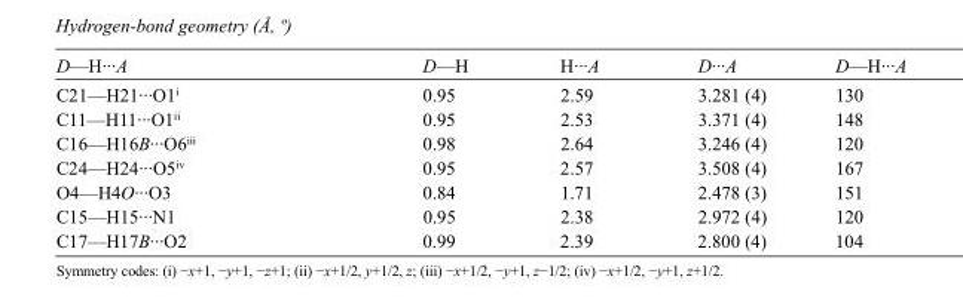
<table><tbody><tr><td>D—H···A</td><td>D—H</td><td>H···A</td><td>D···A</td><td>D—H···A</td></tr><tr><td>C21—H21···O1<sup>i</sup></td><td>0.95</td><td>2.59</td><td>3.281 (4)</td><td>130</td></tr><tr><td>C11—H11···O1<sup>ii</sup></td><td>0.95</td><td>2.53</td><td>3.371 (4)</td><td>148</td></tr><tr><td>C16—H16B···O6<sup>iii</sup></td><td>0.98</td><td>2.64</td><td>3.246 (4)</td><td>120</td></tr><tr><td>C24—H24···O5<sup>iv</sup></td><td>0.95</td><td>2.57</td><td>3.508 (4)</td><td>167</td></tr><tr><td>O4—H4O···O3</td><td>0.84</td><td>1.71</td><td>2.478 (3)</td><td>151</td></tr><tr><td>C15—H15···N1</td><td>0.95</td><td>2.38</td><td>2.972 (4)</td><td>120</td></tr><tr><td>C17—H17B···O2</td><td>0.99</td><td>2.39</td><td>2.800 (4)</td><td>104</td></tr></tbody></table>